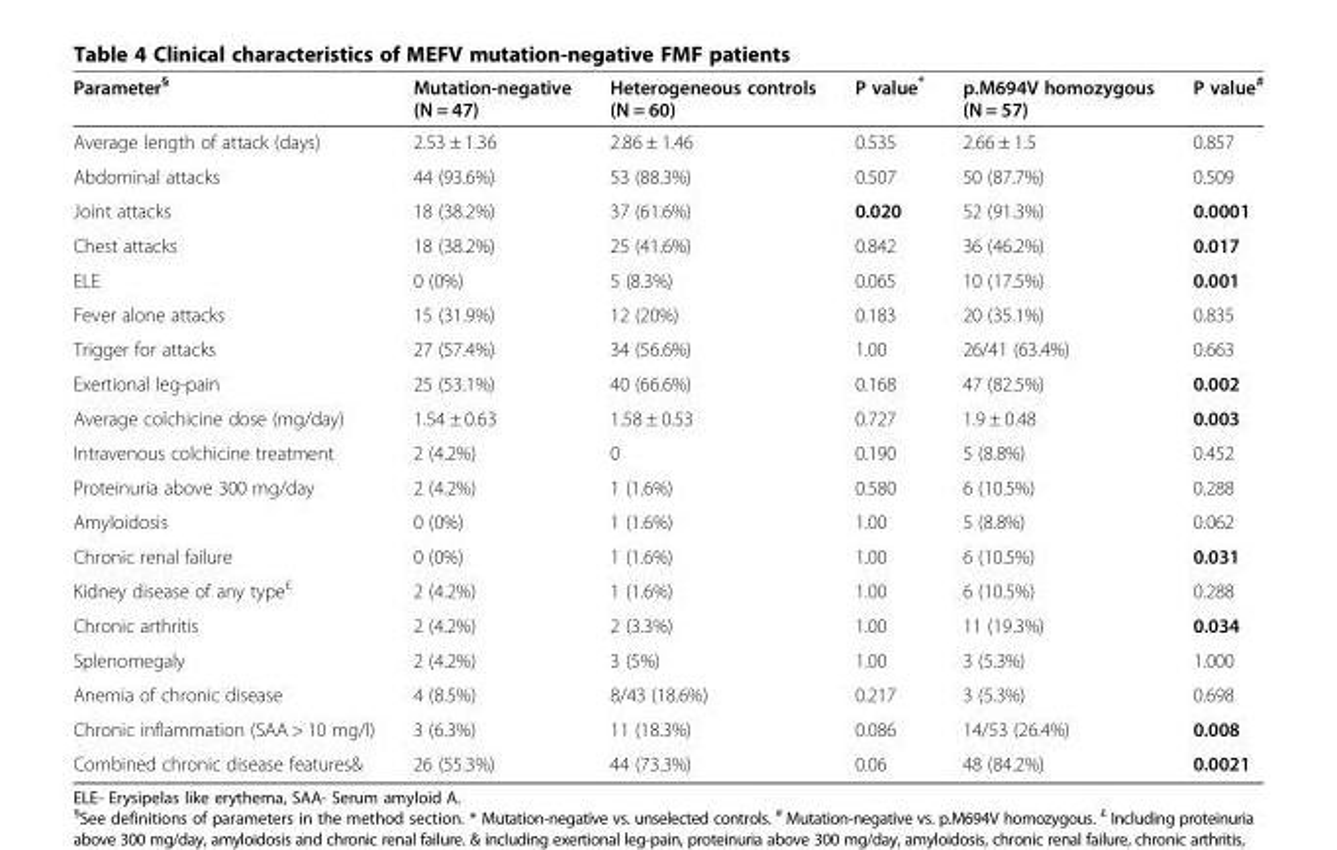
<table><thead><tr><td>Parameter<sup>§</sup></td><td>Mutation-negative (N = 47)</td><td>Heterogeneous controls (N = 60)</td><td>P value*</td><td>p.M694V homozygous (N = 57)</td><td>P value<sup>#</sup></td></tr></thead><tbody><tr><td>Average length of attack (days)</td><td>2.53 ± 1.36</td><td>2.86 ± 1.46</td><td>0.535</td><td>2.66 ± 1.5</td><td>0.857</td></tr><tr><td>Abdominal attacks</td><td>44 (93.6%)</td><td>53 (88.3%)</td><td>0.507</td><td>50 (87.7%)</td><td>0.509</td></tr><tr><td>Joint attacks</td><td>18 (38.2%)</td><td>37 (61.6%)</td><td>0.020</td><td>52 (91.3%)</td><td>0.0001</td></tr><tr><td>Chest attacks</td><td>18 (38.2%)</td><td>25 (41.6%)</td><td>0.842</td><td>36 (46.2%)</td><td>0.017</td></tr><tr><td>ELE</td><td>0 (0%)</td><td>5 (8.3%)</td><td>0.065</td><td>10 (17.5%)</td><td>0.001</td></tr><tr><td>Fever alone attacks</td><td>15 (31.9%)</td><td>12 (20%)</td><td>0.183</td><td>20 (35.1%)</td><td>0.835</td></tr><tr><td>Trigger for attacks</td><td>27 (57.4%)</td><td>34 (56.6%)</td><td>1.00</td><td>26/41 (63.4%)</td><td>0.663</td></tr><tr><td>Exertional leg-pain</td><td>25 (53.1%)</td><td>40 (66.6%)</td><td>0.168</td><td>47 (82.5%)</td><td>0.002</td></tr><tr><td>Average colchicine dose (mg/day)</td><td>1.54 ± 0.63</td><td>1.58 ± 0.53</td><td>0.727</td><td>1.9 ± 0.48</td><td>0.003</td></tr><tr><td>Intravenous colchicine treatment</td><td>2 (4.2%)</td><td>0</td><td>0.190</td><td>5 (8.8%)</td><td>0.452</td></tr><tr><td>Proteinuria above 300 mg/day</td><td>2 (4.2%)</td><td>1 (1.6%)</td><td>0.580</td><td>6 (10.5%)</td><td>0.288</td></tr><tr><td>Amyloidosis</td><td>0 (0%)</td><td>1 (1.6%)</td><td>1.00</td><td>5 (8.8%)</td><td>0.062</td></tr><tr><td>Chronic renal failure</td><td>0 (0%)</td><td>1 (1.6%)</td><td>1.00</td><td>6 (10.5%)</td><td>0.031</td></tr><tr><td>Kidney disease of any type<sup>£</sup></td><td>2 (4.2%)</td><td>1 (1.6%)</td><td>1.00</td><td>6 (10.5%)</td><td>0.288</td></tr><tr><td>Chronic arthritis</td><td>2 (4.2%)</td><td>2 (3.3%)</td><td>1.00</td><td>11 (19.3%)</td><td>0.034</td></tr><tr><td>Splenomegaly</td><td>2 (4.2%)</td><td>3 (5%)</td><td>1.00</td><td>3 (5.3%)</td><td>1.000</td></tr><tr><td>Anemia of chronic disease</td><td>4 (8.5%)</td><td>8/43 (18.6%)</td><td>0.217</td><td>3 (5.3%)</td><td>0.698</td></tr><tr><td>Chronic inflammation (SAA &gt; 10 mg/l)</td><td>3 (6.3%)</td><td>11 (18.3%)</td><td>0.086</td><td>14/53 (26.4%)</td><td>0.008</td></tr><tr><td>Combined chronic disease features&amp;</td><td>26 (55.3%)</td><td>44 (73.3%)</td><td>0.06</td><td>48 (84.2%)</td><td>0.0021</td></tr></tbody></table>